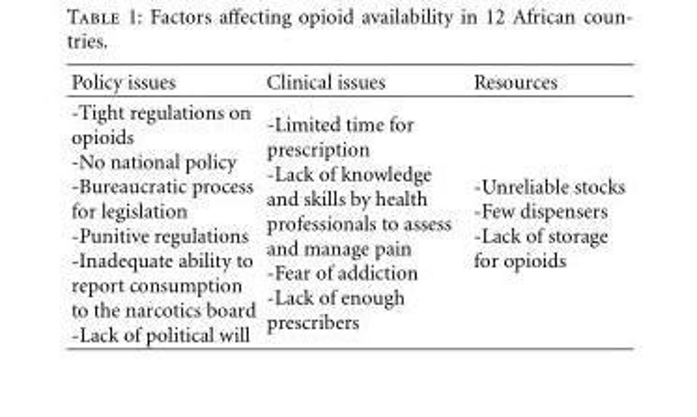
<table><thead><tr><td>Policy issues</td><td>Clinical issues</td><td>Resources</td></tr></thead><tbody><tr><td>-Tight regulations on opioids -No national policy -Bureaucratic process for legislation -Punitive regulations -Inadequate ability to report consumption to the narcotics board -Lack of political will</td><td>-Limited time for prescription -Lack of knowledge and skills by health professionals to assess and manage pain -Fear of addiction -Lack of enough prescribers</td><td>-Unreliable stocks -Few dispensers -Lack of storage for opioids</td></tr></tbody></table>